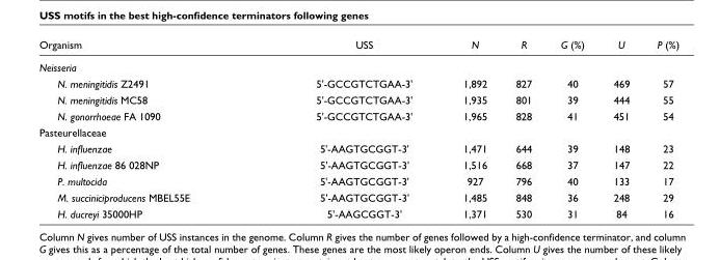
<table><thead><tr><td>Organism</td><td>USS</td><td>N</td><td>R</td><td>G (%)</td><td>U</td><td>P (%)</td></tr></thead><tbody><tr><td colspan="7">Neisseria</td></tr><tr><td>N. meningitidis Z2491</td><td>5&#x27;-GCCGTCTGAA-3&#x27;</td><td>1,892</td><td>827</td><td>40</td><td>469</td><td>57</td></tr><tr><td>N. meningitidis MC58</td><td>5&#x27;-GCCGTCTGAA-3&#x27;</td><td>1,935</td><td>801</td><td>39</td><td>444</td><td>55</td></tr><tr><td>N. gonorrhoeae FA 1090</td><td>5&#x27;-GCCGTCTGAA-3&#x27;</td><td>1,965</td><td>828</td><td>41</td><td>451</td><td>54</td></tr><tr><td colspan="7">Pasteurellaceae</td></tr><tr><td>H. influenzae</td><td>5&#x27;-AAGTGCGGT-3&#x27;</td><td>1,471</td><td>644</td><td>39</td><td>148</td><td>23</td></tr><tr><td>H. influenzae 86 028NP</td><td>5&#x27;-AAGTGCGGT-3&#x27;</td><td>1,516</td><td>668</td><td>37</td><td>147</td><td>22</td></tr><tr><td>P. multocida</td><td>5&#x27;-AAGTGCGGT-3&#x27;</td><td>927</td><td>796</td><td>40</td><td>133</td><td>17</td></tr><tr><td>M. succiniciproducens MBEL55E</td><td>5&#x27;-AAGTGCGGT-3&#x27;</td><td>1,485</td><td>848</td><td>36</td><td>248</td><td>29</td></tr><tr><td>H. ducreyi 35000HP</td><td>5&#x27;-AAGCGGT-3&#x27;</td><td>1,371</td><td>530</td><td>31</td><td>84</td><td>16</td></tr></tbody></table>